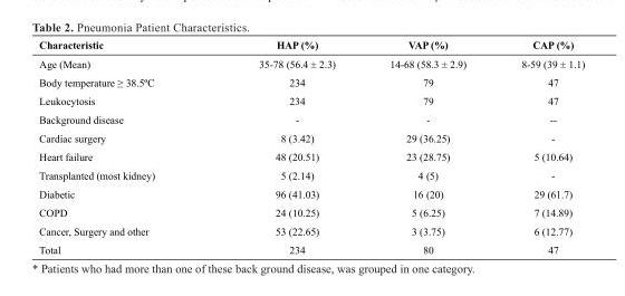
<table><thead><tr><td>Characteristic</td><td>HAp (%)</td><td>VAp (%)</td><td>CAp (%)</td></tr></thead><tbody><tr><td>Age (Mean)</td><td>35-78 (56.4 ± 2.3)</td><td>14-68 (58.3 ± 2.9)</td><td>8-59 (39 ± 1.1)</td></tr><tr><td>Body temperature ≥ 38.5ºC</td><td>234</td><td>79</td><td>47</td></tr><tr><td>Leukocytosis</td><td>234</td><td>79</td><td>47</td></tr><tr><td>Background disease</td><td>-</td><td>-</td><td>--</td></tr><tr><td>Cardiac surgery</td><td>8 (3.42)</td><td>29 (36.25)</td><td>-</td></tr><tr><td>Heart failure</td><td>48 (20.51)</td><td>23 (28.75)</td><td>5 (10.64)</td></tr><tr><td>Transplanted (most kidney)</td><td>5 (2.14)</td><td>4 (5)</td><td>-</td></tr><tr><td>Diabetic</td><td>96 (41.03)</td><td>16 (20)</td><td>29 (61.7)</td></tr><tr><td>COPD</td><td>24 (10.25)</td><td>5 (6.25)</td><td>7 (14.89)</td></tr><tr><td>Cancer, Surgery and other</td><td>53 (22.65)</td><td>3 (3.75)</td><td>6 (12.77)</td></tr><tr><td>Total</td><td>234</td><td>80</td><td>47</td></tr></tbody></table>